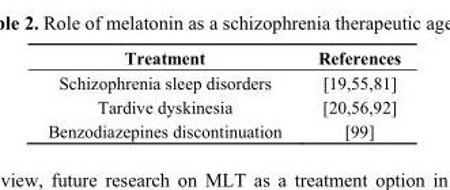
<table><thead><tr><td>Treatment</td><td>References</td></tr></thead><tbody><tr><td>Schizophrenia sleep disorders</td><td>[19,55,81]</td></tr><tr><td>Tardive dyskinesia</td><td>[20,56,92]</td></tr><tr><td>Benzodiazepines discontinuation</td><td>[99]</td></tr></tbody></table>